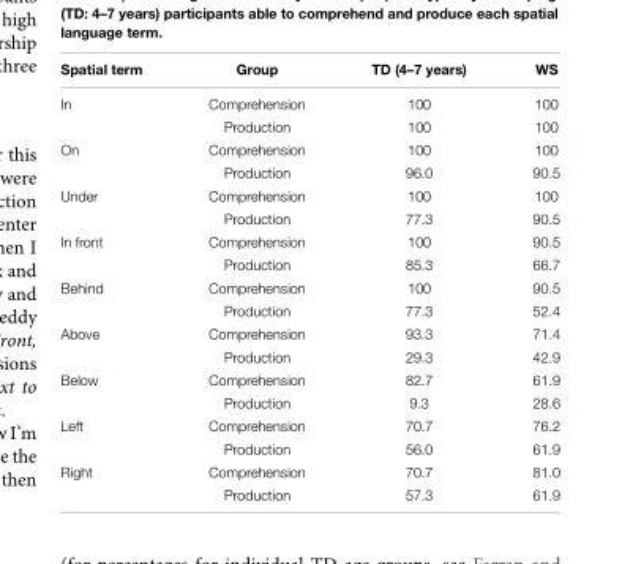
<table><thead><tr><td>Spatial term</td><td>Group</td><td>TD (4–7 years)</td><td>WS</td></tr></thead><tbody><tr><td rowspan="2">In</td><td>Comprehension</td><td>100</td><td>100</td></tr><tr><td>Production</td><td>100</td><td>100</td></tr><tr><td rowspan="2">On</td><td>Comprehension</td><td>100</td><td>100</td></tr><tr><td>Production</td><td>96.0</td><td>90.5</td></tr><tr><td rowspan="2">Under</td><td>Comprehension</td><td>100</td><td>100</td></tr><tr><td>Production</td><td>77.3</td><td>90.5</td></tr><tr><td rowspan="2">In front</td><td>Comprehension</td><td>100</td><td>90.5</td></tr><tr><td>Production</td><td>85.3</td><td>66.7</td></tr><tr><td rowspan="2">Behind</td><td>Comprehension</td><td>100</td><td>90.5</td></tr><tr><td>Production</td><td>77.3</td><td>52.4</td></tr><tr><td rowspan="2">Above</td><td>Comprehension</td><td>93.3</td><td>71.4</td></tr><tr><td>Production</td><td>29.3</td><td>42.9</td></tr><tr><td rowspan="2">Below</td><td>Comprehension</td><td>82.7</td><td>61.9</td></tr><tr><td>Production</td><td>9.3</td><td>28.6</td></tr><tr><td rowspan="2">Left</td><td>Comprehension</td><td>70.7</td><td>76.2</td></tr><tr><td>Production</td><td>56.0</td><td>61.9</td></tr><tr><td rowspan="2">Right</td><td>Comprehension</td><td>70.7</td><td>81.0</td></tr><tr><td>Production</td><td>57.3</td><td>61.9</td></tr></tbody></table>